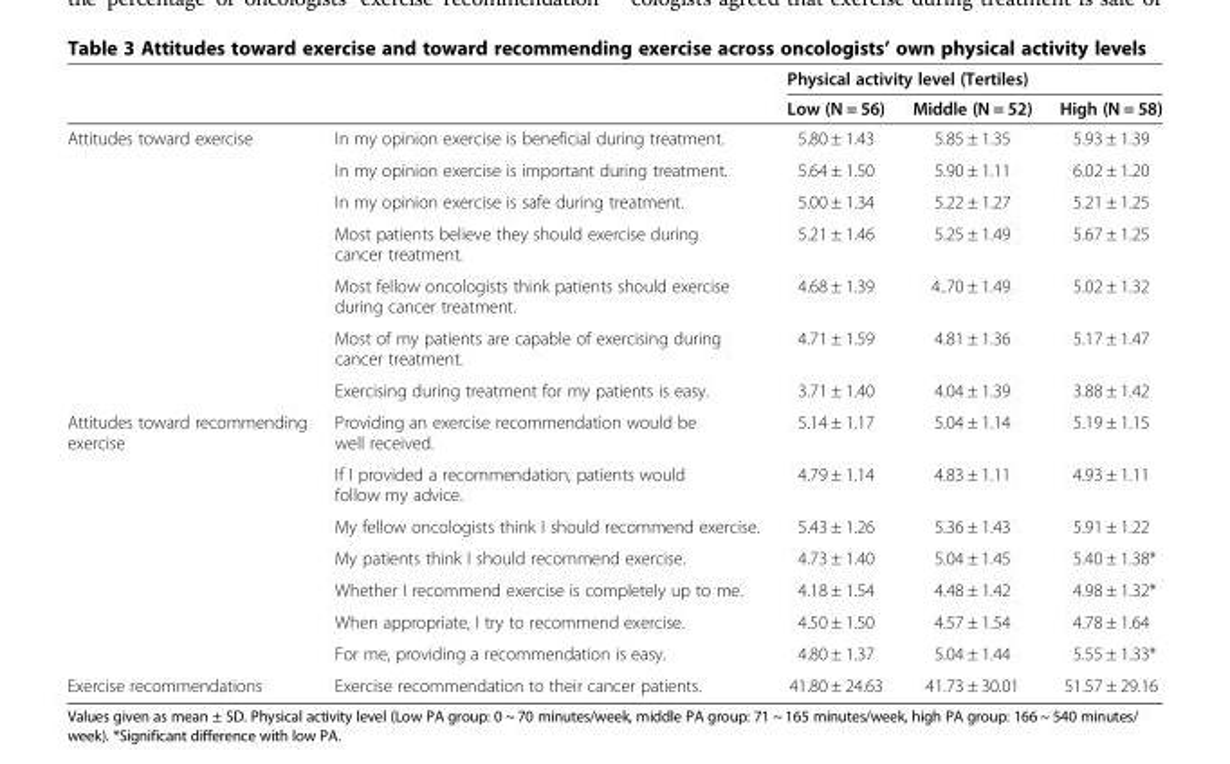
<table><thead><tr><td rowspan="2"></td><td rowspan="2"></td><td colspan="3">Physical activity level (Tertiles)</td></tr><tr><td>Low (N = 56)</td><td>Middle (N = 52)</td><td>High (N = 58)</td></tr></thead><tbody><tr><td rowspan="7">Attitudes toward exercise</td><td>In my opinion exercise is beneficial during treatment.</td><td>5.80 ± 1.43</td><td>5.85 ± 1.35</td><td>5.93 ± 1.39</td></tr><tr><td>In my opinion exercise is important during treatment.</td><td>5.64 ± 1.50</td><td>5.90 ± 1.11</td><td>6.02 ± 1.20</td></tr><tr><td>In my opinion exercise is safe during treatment.</td><td>5.00 ± 1.34</td><td>5.22 ± 1.27</td><td>5.21 ± 1.25</td></tr><tr><td>Most patients believe they should exercise during cancer treatment.</td><td>5.21 ± 1.46</td><td>5.25 ± 1.49</td><td>5.67 ± 1.25</td></tr><tr><td>Most fellow oncologists think patients should exercise during cancer treatment.</td><td>4.68 ± 1.39</td><td>4..70 ± 1.49</td><td>5.02 ± 1.32</td></tr><tr><td>Most of my patients are capable of exercising during cancer treatment.</td><td>4.71 ± 1.59</td><td>4.81 ± 1.36</td><td>5.17 ± 1.47</td></tr><tr><td>Exercising during treatment for my patients is easy.</td><td>3.71 ± 1.40</td><td>4.04 ± 1.39</td><td>3.88 ± 1.42</td></tr><tr><td rowspan="7">Attitudes toward recommending exercise</td><td>Providing an exercise recommendation would be well received.</td><td>5.14 ± 1.17</td><td>5.04 ± 1.14</td><td>5.19 ± 1.15</td></tr><tr><td>If I provided a recommendation, patients would follow my advice.</td><td>4.79 ± 1.14</td><td>4.83 ± 1.11</td><td>4.93 ± 1.11</td></tr><tr><td>My fellow oncologists think I should recommend exercise.</td><td>5.43 ± 1.26</td><td>5.36 ± 1.43</td><td>5.91 ± 1.22</td></tr><tr><td>My patients think I should recommend exercise.</td><td>4.73 ± 1.40</td><td>5.04 ± 1.45</td><td>5.40 ± 1.38*</td></tr><tr><td>Whether I recommend exercise is completely up to me.</td><td>4.18 ± 1.54</td><td>4.48 ± 1.42</td><td>4.98 ± 1.32*</td></tr><tr><td>When appropriate, I try to recommend exercise.</td><td>4.50 ± 1.50</td><td>4.57 ± 1.54</td><td>4.78 ± 1.64</td></tr><tr><td>For me, providing a recommendation is easy.</td><td>4.80 ± 1.37</td><td>5.04 ± 1.44</td><td>5.55 ± 1.33*</td></tr><tr><td>Exercise recommendations</td><td>Exercise recommendation to their cancer patients.</td><td>41.80 ± 24.63</td><td>41.73 ± 30.01</td><td>51.57 ± 29.16</td></tr></tbody></table>